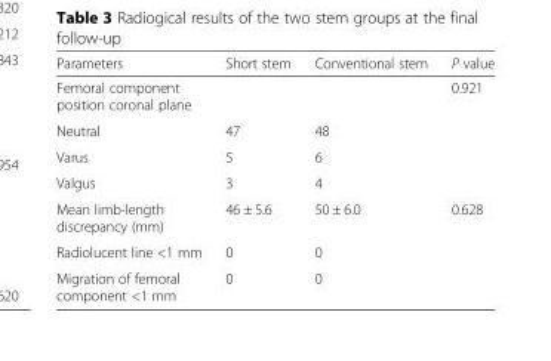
<table><thead><tr><td>Parameters</td><td>Short stem</td><td>Conventional stem</td><td>P value</td></tr></thead><tbody><tr><td>Femoral component position coronal plane</td><td></td><td></td><td>0.921</td></tr><tr><td>Neutral</td><td>47</td><td>48</td><td></td></tr><tr><td>Varus</td><td>5</td><td>6</td><td></td></tr><tr><td>Valgus</td><td>3</td><td>4</td><td></td></tr><tr><td>Mean limb-length discrepancy (mm)</td><td>46 ± 5.6</td><td>50 ± 6.0</td><td>0.628</td></tr><tr><td>Radiolucent line &lt;1 mm</td><td>0</td><td>0</td><td></td></tr><tr><td>Migration of femoral component &lt;1 mm</td><td>0</td><td>0</td><td></td></tr></tbody></table>